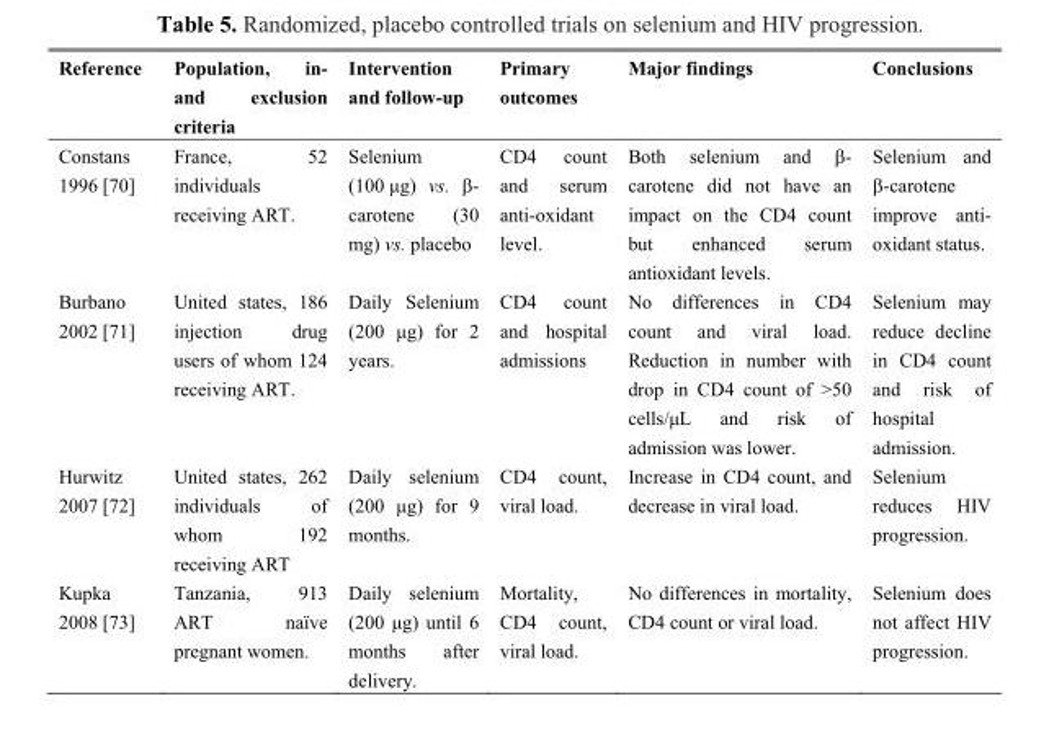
<table><thead><tr><td>Reference</td><td>Population, in- and exclusion criteria</td><td>Intervention and follow-up</td><td>Primary outcomes</td><td>Major findings</td><td>Conclusions</td></tr></thead><tbody><tr><td>Constans 1996 [70]</td><td>France, 52 individuals receiving ART.</td><td>Selenium (100 μg) vs. β- carotene (30 mg) vs. placebo</td><td>CD4 count and serum anti-oxidant level.</td><td>Both selenium and β- carotene did not have an impact on the CD4 count but enhanced serum antioxidant levels.</td><td>Selenium and β-carotene improve anti- oxidant status.</td></tr><tr><td>Burbano 2002 [71]</td><td>United states, 186 injection drug users of whom 124 receiving ART.</td><td>Daily Selenium (200 μg) for 2 years.</td><td>CD4 count and hospital admissions</td><td>No differences in CD4 count and viral load. Reduction in number with drop in CD4 count of &gt;50 cells/μL and risk of admission was lower.</td><td>Selenium may reduce decline in CD4 count and risk of hospital admission.</td></tr><tr><td>Hurwitz 2007 [72]</td><td>United states, 262 individuals of whom 192 receiving ART</td><td>Daily selenium (200 μg) for 9 months.</td><td>CD4 count, viral load.</td><td>Increase in CD4 count, and decrease in viral load.</td><td>Selenium reduces HIV progression.</td></tr><tr><td>Kupka 2008 [73]</td><td>Tanzania, 913 ART naïve pregnant women.</td><td>Daily selenium (200 μg) until 6 months after delivery.</td><td>Mortality, CD4 count, viral load.</td><td>No differences in mortality, CD4 count or viral load.</td><td>Selenium does not affect HIV progression.</td></tr></tbody></table>